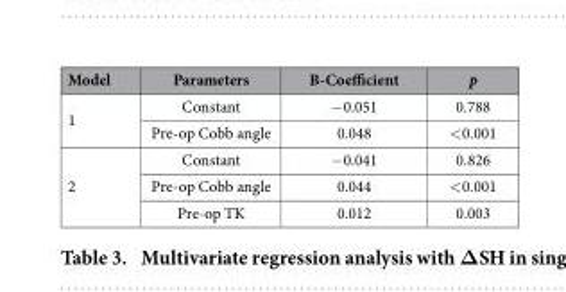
<table><thead><tr><td>Model</td><td>Parameters</td><td>B-Coefficient</td><td>p</td></tr></thead><tbody><tr><td rowspan="2">1</td><td>Constant</td><td>− 0.051</td><td>0.788</td></tr><tr><td>Pre-op Cobb angle</td><td>0.048</td><td>&lt; 0.001</td></tr><tr><td rowspan="3">2</td><td>Constant</td><td>− 0.041</td><td>0.826</td></tr><tr><td>Pre-op Cobb angle</td><td>0.044</td><td>&lt; 0.001</td></tr><tr><td>Pre-op TK</td><td>0.012</td><td>0.003</td></tr></tbody></table>